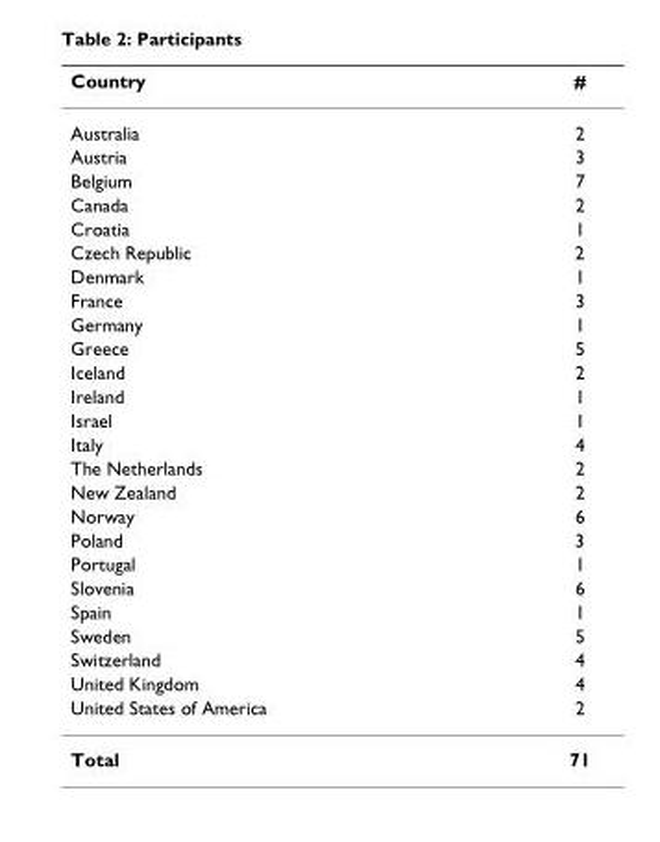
<table><thead><tr><td>Country</td><td>#</td></tr></thead><tbody><tr><td>Australia</td><td>2</td></tr><tr><td>Austria</td><td>3</td></tr><tr><td>Belgium</td><td>7</td></tr><tr><td>Canada</td><td>2</td></tr><tr><td>Croatia</td><td>1</td></tr><tr><td>Czech Republic</td><td>2</td></tr><tr><td>Denmark</td><td>1</td></tr><tr><td>France</td><td>3</td></tr><tr><td>Germany</td><td>1</td></tr><tr><td>Greece</td><td>5</td></tr><tr><td>Iceland</td><td>2</td></tr><tr><td>Ireland</td><td>1</td></tr><tr><td>Israel</td><td>1</td></tr><tr><td>Italy</td><td>4</td></tr><tr><td>The Netherlands</td><td>2</td></tr><tr><td>New Zealand</td><td>2</td></tr><tr><td>Norway</td><td>6</td></tr><tr><td>Poland</td><td>3</td></tr><tr><td>Portugal</td><td>1</td></tr><tr><td>Slovenia</td><td>6</td></tr><tr><td>Spain</td><td>1</td></tr><tr><td>Sweden</td><td>5</td></tr><tr><td>Switzerland</td><td>4</td></tr><tr><td>United Kingdom</td><td>4</td></tr><tr><td>United States of America</td><td>2</td></tr><tr><td>Total</td><td>71</td></tr></tbody></table>